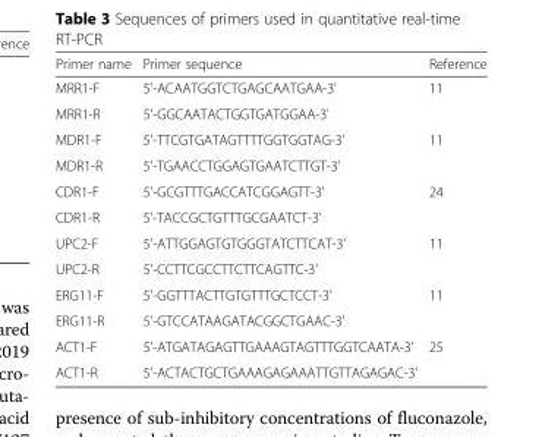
<table><thead><tr><td>Primer name</td><td>Primer sequence</td><td>Reference</td></tr></thead><tbody><tr><td>MRR1-F</td><td>5&#x27;-ACAATGGTCTGAGCAATGAA-3&#x27;</td><td>11</td></tr><tr><td>MRR1-R</td><td>5&#x27;-GGCAATACTGGTGATGGAA-3&#x27;</td><td></td></tr><tr><td>MDR1-F</td><td>5&#x27;-TTCGTGATAGTTTTGGTGGTAG-3&#x27;</td><td>11</td></tr><tr><td>MDR1-R</td><td>5&#x27;-TGAACCTGGAGTGAATCTTGT-3&#x27;</td><td></td></tr><tr><td>CDR1-F</td><td>5&#x27;-GCGTTTGACCATCGGAGTT-3&#x27;</td><td>24</td></tr><tr><td>CDR1-R</td><td>5&#x27;-TACCGCTGTTTGCGAATCT-3&#x27;</td><td></td></tr><tr><td>UPC2-F</td><td>5&#x27;-ATTGGAGTGTGGGTATCTTCAT-3&#x27;</td><td>11</td></tr><tr><td>UPC2-R</td><td>5&#x27;-CCTTCGCCTTCTTCAGTTC-3&#x27;</td><td></td></tr><tr><td>ERG11-F</td><td>5&#x27;-GGTTTACTTGTGTTTGCTCCT-3&#x27;</td><td>11</td></tr><tr><td>ERG11-R</td><td>5&#x27;-GTCCATAAGATACGGCTGAAC-3&#x27;</td><td></td></tr><tr><td>ACT1-F</td><td>5&#x27;-ATGATAGAGTTGAAAGTAGTTTGGTCAATA-3&#x27;</td><td>25</td></tr><tr><td>ACT1-R</td><td>5&#x27;-ACTACTGCTGAAAGAGAAATTGTTAGAGAC-3&#x27;</td><td></td></tr></tbody></table>